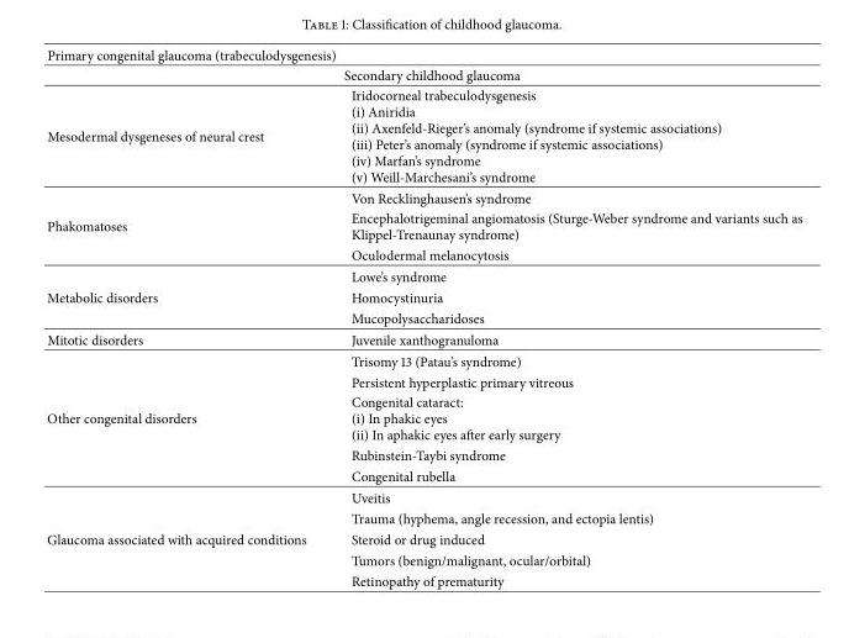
<table><tbody><tr><td colspan="2">Primary congenital glaucoma (trabeculodysgenesis)</td></tr><tr><td colspan="2">Secondary childhood glaucoma</td></tr><tr><td rowspan="2">Mesodermal dysgeneses of neural crest</td><td>Iridocorneal trabeculodysgenesis (i) Aniridia (ii) Axenfeld-Rieger’s anomaly (syndrome if systemic associations) (iii) Peter’s anomaly (syndrome if systemic associations) (iv) Marfan’s syndrome (v) Weill-Marchesani’s syndrome</td></tr><tr><td>Von Recklinghausen’s syndrome</td></tr><tr><td rowspan="3">Phakomatoses</td><td>Encephalotrigeminal angiomatosis (Sturge-Weber syndrome and variants such as Klippel-Trenaunay syndrome)</td></tr><tr><td>Oculodermal melanocytosis</td></tr><tr><td>Lowe’s syndrome</td></tr><tr><td rowspan="2">Metabolic disorders</td><td>Homocystinuria</td></tr><tr><td>Mucopolysaccharidoses</td></tr><tr><td rowspan="3">Mitotic disorders</td><td>Juvenile xanthogranuloma</td></tr><tr><td>Trisomy 13 (Patau’s syndrome)</td></tr><tr><td>Persistent hyperplastic primary vitreous</td></tr><tr><td rowspan="5">Other congenital disorders</td><td>Congenital cataract: (i) In phakic eyes (ii) In aphakic eyes after early surgery</td></tr><tr><td>Rubinstein-Taybi syndrome</td></tr><tr><td>Congenital rubella</td></tr><tr><td>Uveitis</td></tr><tr><td>Trauma (hyphema, angle recession, and ectopia lentis)</td></tr><tr><td rowspan="3">Glaucoma associated with acquired conditions</td><td>Steroid or drug induced</td></tr><tr><td>Tumors (benign/malignant, ocular/orbital)</td></tr><tr><td>Retinopathy of prematurity</td></tr></tbody></table>